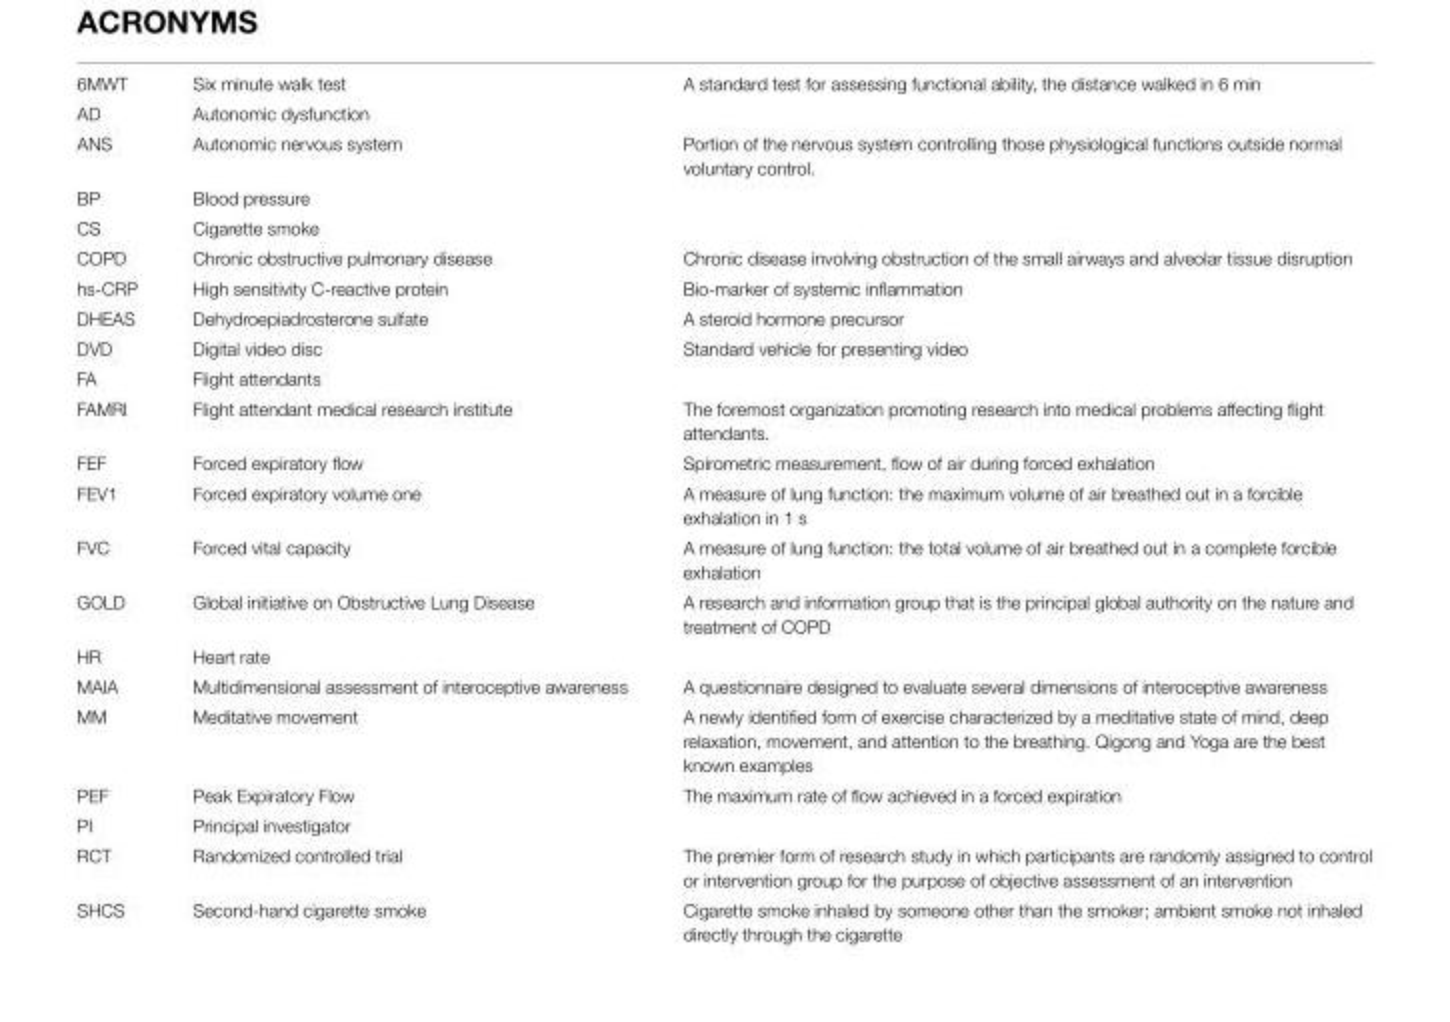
<table><tbody><tr><td>6MWT</td><td>Six minute walk test</td><td>A standard test for assessing functional ability, the distance walked in 6 min</td></tr><tr><td>AD</td><td>Autonomic dysfunction</td><td></td></tr><tr><td>ANS</td><td>Autonomic nervous system</td><td>Portion of the nervous system controlling those physiological functions outside normal voluntary control.</td></tr><tr><td>BP</td><td>Blood pressure</td><td></td></tr><tr><td>CS</td><td>Cigarette smoke</td><td></td></tr><tr><td>COPD</td><td>Chronic obstructive pulmonary disease</td><td>Chronic disease involving obstruction of the small airways and alveolar tissue disruption</td></tr><tr><td>hs-CRP</td><td>High sensitivity C-reactive protein</td><td>Bio-marker of systemic inflammation</td></tr><tr><td>DHEAS</td><td>Dehydroepiadrosterone sulfate</td><td>A steroid hormone precursor</td></tr><tr><td>DVD</td><td>Digital video disc</td><td>Standard vehicle for presenting video</td></tr><tr><td>FA</td><td>Flight attendants</td><td></td></tr><tr><td>FAMRI</td><td>Flight attendant medical research institute</td><td>The foremost organization promoting research into medical problems affecting flight attendants.</td></tr><tr><td>FEF</td><td>Forced expiratory flow</td><td>Spirometric measurement, flow of air during forced exhalation</td></tr><tr><td>FEV1</td><td>Forced expiratory volume one</td><td>A measure of lung function: the maximum volume of air breathed out in a forcible exhalation in 1 s</td></tr><tr><td>FVC</td><td>Forced vital capacity</td><td>A measure of lung function: the total volume of air breathed out in a complete forcible exhalation</td></tr><tr><td>GOLD</td><td>Global initiative on Obstructive Lung Disease</td><td>A research and information group that is the principal global authority on the nature and treatment of COPD</td></tr><tr><td>HR</td><td>Heart rate</td><td></td></tr><tr><td>MAIA</td><td>Multidimensional assessment of interoceptive awareness</td><td>A questionnaire designed to evaluate several dimensions of interoceptive awareness</td></tr><tr><td>MM</td><td>Meditative movement</td><td>A newly identified form of exercise characterized by a meditative state of mind, deep relaxation, movement, and attention to the breathing. Qigong and Yoga are the best known examples</td></tr><tr><td>PEF</td><td>Peak Expiratory Flow</td><td>The maximum rate of flow achieved in a forced expiration</td></tr><tr><td>PI</td><td>Principal investigator</td><td></td></tr><tr><td>RCT</td><td>Randomized controlled trial</td><td>The premier form of research study in which participants are randomly assigned to control or intervention group for the purpose of objective assessment of an intervention</td></tr><tr><td>SHCS</td><td>Second-hand cigarette smoke</td><td>Cigarette smoke inhaled by someone other than the smoker; ambient smoke not inhaled directly through the cigarette</td></tr></tbody></table>